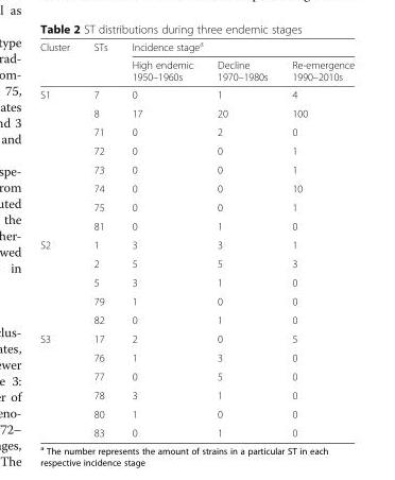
<table><thead><tr><td rowspan="2">Cluster</td><td rowspan="2">STs</td><td colspan="3">Incidence stage<sup>a</sup></td></tr><tr><td>High endemic 1950–1960s</td><td>Decline 1970–1980s</td><td>Re-emergence 1990–2010s</td></tr></thead><tbody><tr><td rowspan="8">S1</td><td>7</td><td>0</td><td>1</td><td>4</td></tr><tr><td>8</td><td>17</td><td>20</td><td>100</td></tr><tr><td>71</td><td>0</td><td>2</td><td>0</td></tr><tr><td>72</td><td>0</td><td>0</td><td>1</td></tr><tr><td>73</td><td>0</td><td>0</td><td>1</td></tr><tr><td>74</td><td>0</td><td>0</td><td>10</td></tr><tr><td>75</td><td>0</td><td>0</td><td>1</td></tr><tr><td>81</td><td>0</td><td>1</td><td>0</td></tr><tr><td rowspan="5">S2</td><td>1</td><td>3</td><td>3</td><td>1</td></tr><tr><td>2</td><td>5</td><td>5</td><td>3</td></tr><tr><td>5</td><td>3</td><td>1</td><td>0</td></tr><tr><td>79</td><td>1</td><td>0</td><td>0</td></tr><tr><td>82</td><td>0</td><td>1</td><td>0</td></tr><tr><td rowspan="6">S3</td><td>17</td><td>2</td><td>0</td><td>5</td></tr><tr><td>76</td><td>1</td><td>3</td><td>0</td></tr><tr><td>77</td><td>0</td><td>5</td><td>0</td></tr><tr><td>78</td><td>3</td><td>1</td><td>0</td></tr><tr><td>80</td><td>1</td><td>0</td><td>0</td></tr><tr><td>83</td><td>0</td><td>1</td><td>0</td></tr></tbody></table>